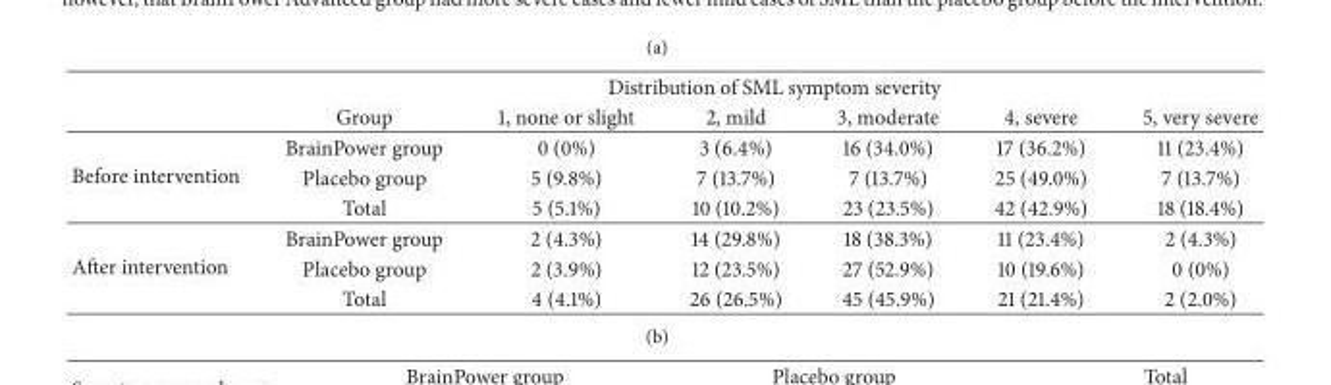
<table><thead><tr><td rowspan="2"></td><td colspan="6">Distribution of SML symptom severity</td></tr><tr><td>Group</td><td>1, none or slight</td><td>2, mild</td><td>3, moderate</td><td>4, severe</td><td>5, very severe</td></tr></thead><tbody><tr><td rowspan="3">Before intervention</td><td>BrainPower group</td><td>0 (0%)</td><td>3 (6.4%)</td><td>16 (34.0%)</td><td>17 (36.2%)</td><td>11 (23.4%)</td></tr><tr><td>Placebo group</td><td>5 (9.8%)</td><td>7 (13.7%)</td><td>7 (13.7%)</td><td>25 (49.0%)</td><td>7 (13.7%)</td></tr><tr><td>Total</td><td>5 (5.1%)</td><td>10 (10.2%)</td><td>23 (23.5%)</td><td>42 (42.9%)</td><td>18 (18.4%)</td></tr><tr><td rowspan="3">After intervention</td><td>BrainPower group</td><td>2 (4.3%)</td><td>14 (29.8%)</td><td>18 (38.3%)</td><td>11 (23.4%)</td><td>2 (4.3%)</td></tr><tr><td>Placebo group</td><td>2 (3.9%)</td><td>12 (23.5%)</td><td>27 (52.9%)</td><td>10 (19.6%)</td><td>0 (0%)</td></tr><tr><td>Total</td><td>4 (4.1%)</td><td>26 (26.5%)</td><td>45 (45.9%)</td><td>21 (21.4%)</td><td>2 (2.0%)</td></tr></tbody></table>